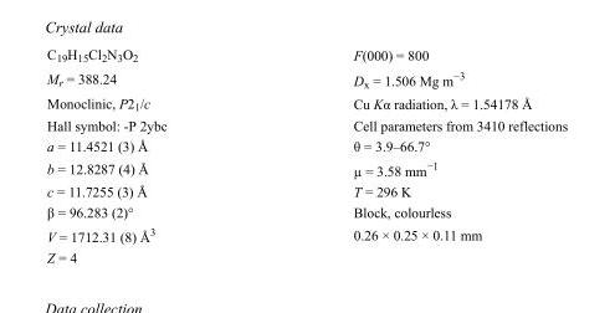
<table><tbody><tr><td>C<sub>19</sub>H<sub>15</sub>Cl<sub>2</sub>N<sub>3</sub>O<sub>2</sub></td><td>F(000) = 800</td></tr><tr><td>M<sub>r</sub> = 388.24</td><td>D<sub>x</sub> = 1.506 Mg m<sup>−3</sup></td></tr><tr><td>Monoclinic, P2<sub>1</sub>/c</td><td>Cu Kα radiation, λ = 1.54178 Å</td></tr><tr><td>Hall symbol: -P 2ybc</td><td>Cell parameters from 3410 reflections</td></tr><tr><td>a = 11.4521 (3) Å</td><td>θ = 3.9–66.7°</td></tr><tr><td>b = 12.8287 (4) Å</td><td>µ = 3.58 mm<sup>−1</sup></td></tr><tr><td>c = 11.7255 (3) Å</td><td>T = 296 K</td></tr><tr><td>β = 96.283 (2)°</td><td>Block, colourless</td></tr><tr><td>V = 1712.31 (8) Å<sup>3</sup></td><td>0.26 × 0.25 × 0.11 mm</td></tr><tr><td>Z = 4</td><td></td></tr></tbody></table>